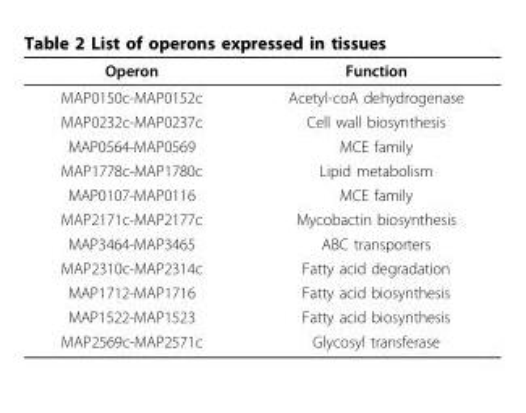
<table><thead><tr><td>Operon</td><td>Function</td></tr></thead><tbody><tr><td>MAP0150c-MAP0152c</td><td>Acetyl-coA dehydrogenase</td></tr><tr><td>MAP0232c-MAP0237c</td><td>Cell wall biosynthesis</td></tr><tr><td>MAP0564-MAP0569</td><td>MCE family</td></tr><tr><td>MAP1778c-MAP1780c</td><td>Lipid metabolism</td></tr><tr><td>MAP0107-MAP0116</td><td>MCE family</td></tr><tr><td>MAP2171c-MAP2177c</td><td>Mycobactin biosynthesis</td></tr><tr><td>MAP3464-MAP3465</td><td>ABC transporters</td></tr><tr><td>MAP2310c-MAP2314c</td><td>Fatty acid degradation</td></tr><tr><td>MAP1712-MAP1716</td><td>Fatty acid biosynthesis</td></tr><tr><td>MAP1522-MAP1523</td><td>Fatty acid biosynthesis</td></tr><tr><td>MAP2569c-MAP2571c</td><td>Glycosyl transferase</td></tr></tbody></table>